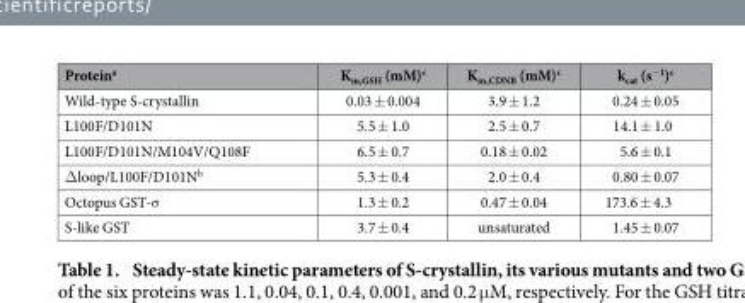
<table><thead><tr><td>Protein<sup>a</sup></td><td>K<sub>m,GSH</sub> (mM)<sup>c</sup></td><td>K<sub>m,CDNB</sub> (mM)<sup>c</sup></td><td>k<sub>cat</sub> (s<sup>−1</sup>)<sup>c</sup></td></tr></thead><tbody><tr><td>Wild-type S-crystallin</td><td>0.03 ± 0.004</td><td>3.9 ± 1.2</td><td>0.24 ± 0.05</td></tr><tr><td>L100F/D101N</td><td>5.5 ± 1.0</td><td>2.5 ± 0.7</td><td>14.1 ± 1.0</td></tr><tr><td>L100F/D101N/M104V/Q108F</td><td>6.5 ± 0.7</td><td>0.18 ± 0.02</td><td>5.6 ± 0.1</td></tr><tr><td>Δ loop/L100F/D101N<sup>b</sup></td><td>5.3 ± 0.4</td><td>2.0 ± 0.4</td><td>0.80 ± 0.07</td></tr><tr><td>Octopus GST-σ</td><td>1.3 ± 0.2</td><td>0.47 ± 0.04</td><td>173.6 ± 4.3</td></tr><tr><td>S-like GST</td><td>3.7 ± 0.4</td><td>unsaturated</td><td>1.45 ± 0.07</td></tr></tbody></table>